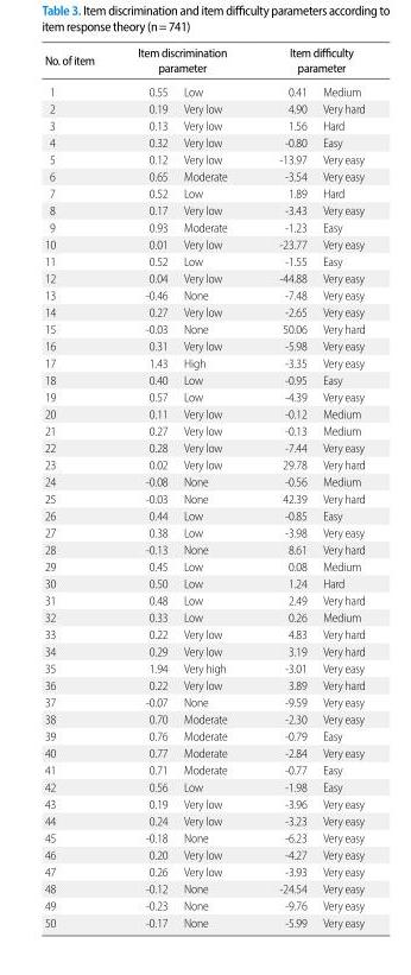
<table><thead><tr><td rowspan="2">No. of item 1</td><td colspan="2">Item discrimination parameter</td><td colspan="2">Item difficulty parameter</td></tr><tr><td>0.55</td><td>Low</td><td>0.41</td><td>Medium</td></tr></thead><tbody><tr><td>2</td><td>0.19</td><td>Very low</td><td>4.90</td><td>Very hard</td></tr><tr><td>3</td><td>0.13</td><td>Very low</td><td>1.56</td><td>Hard</td></tr><tr><td>4</td><td>0.32</td><td>Very low</td><td>-0.80</td><td>Easy</td></tr><tr><td>5</td><td>0.12</td><td>Very low</td><td>-13.97</td><td>Very easy</td></tr><tr><td>6</td><td>0.65</td><td>Moderate</td><td>-3.54</td><td>Very easy</td></tr><tr><td>7</td><td>0.52</td><td>Low</td><td>1.89</td><td>Hard</td></tr><tr><td>8</td><td>0.17</td><td>Very low</td><td>-3.43</td><td>Very easy</td></tr><tr><td>9</td><td>0.93</td><td>Moderate</td><td>-1.23</td><td>Easy</td></tr><tr><td>10</td><td>0.01</td><td>Very low</td><td>-23.77</td><td>Very easy</td></tr><tr><td>11</td><td>0.52</td><td>Low</td><td>-1.55</td><td>Easy</td></tr><tr><td>12</td><td>0.04</td><td>Very low</td><td>-44.88</td><td>Very easy</td></tr><tr><td>13</td><td>-0.46</td><td>None</td><td>-7.48</td><td>Very easy</td></tr><tr><td>14</td><td>0.27</td><td>Very low</td><td>-2.65</td><td>Very easy</td></tr><tr><td>15</td><td>-0.03</td><td>None</td><td>50.06</td><td>Very hard</td></tr><tr><td>16</td><td>0.31</td><td>Very low</td><td>-5.98</td><td>Very easy</td></tr><tr><td>17</td><td>1.43</td><td>High</td><td>-3.35</td><td>Very easy</td></tr><tr><td>18</td><td>0.40</td><td>Low</td><td>-0.95</td><td>Easy</td></tr><tr><td>19</td><td>0.57</td><td>Low</td><td>-4.39</td><td>Very easy</td></tr><tr><td>20</td><td>0.11</td><td>Very low</td><td>-0.12</td><td>Medium</td></tr><tr><td>21</td><td>0.27</td><td>Very low</td><td>-0.13</td><td>Medium</td></tr><tr><td>22</td><td>0.28</td><td>Very low</td><td>-7.44</td><td>Very easy</td></tr><tr><td>23</td><td>0.02</td><td>Very low</td><td>29.78</td><td>Very hard</td></tr><tr><td>24</td><td>-0.08</td><td>None</td><td>-0.56</td><td>Medium</td></tr><tr><td>25</td><td>-0.03</td><td>None</td><td>42.39</td><td>Very hard</td></tr><tr><td>26</td><td>0.44</td><td>Low</td><td>-0.85</td><td>Easy</td></tr><tr><td>27</td><td>0.38</td><td>Low</td><td>-3.98</td><td>Very easy</td></tr><tr><td>28</td><td>-0.13</td><td>None</td><td>8.61</td><td>Very hard</td></tr><tr><td>29</td><td>0.45</td><td>Low</td><td>0.08</td><td>Medium</td></tr><tr><td>30</td><td>0.50</td><td>Low</td><td>1.24</td><td>Hard</td></tr><tr><td>31</td><td>0.48</td><td>Low</td><td>2.49</td><td>Very hard</td></tr><tr><td>32</td><td>0.33</td><td>Low</td><td>0.26</td><td>Medium</td></tr><tr><td>33</td><td>0.22</td><td>Very low</td><td>4.83</td><td>Very hard</td></tr><tr><td>34</td><td>0.29</td><td>Very low</td><td>3.19</td><td>Very hard</td></tr><tr><td>35</td><td>1.94</td><td>Very high</td><td>-3.01</td><td>Very easy</td></tr><tr><td>36</td><td>0.22</td><td>Very low</td><td>3.89</td><td>Very hard</td></tr><tr><td>37</td><td>-0.07</td><td>None</td><td>-9.59</td><td>Very easy</td></tr><tr><td>38</td><td>0.70</td><td>Moderate</td><td>-2.30</td><td>Very easy</td></tr><tr><td>39</td><td>0.76</td><td>Moderate</td><td>-0.79</td><td>Easy</td></tr><tr><td>40</td><td>0.77</td><td>Moderate</td><td>-2.84</td><td>Very easy</td></tr><tr><td>41</td><td>0.71</td><td>Moderate</td><td>-0.77</td><td>Easy</td></tr><tr><td>42</td><td>0.56</td><td>Low</td><td>-1.98</td><td>Easy</td></tr><tr><td>43</td><td>0.19</td><td>Very low</td><td>-3.96</td><td>Very easy</td></tr><tr><td>44</td><td>0.24</td><td>Very low</td><td>-3.23</td><td>Very easy</td></tr><tr><td>45</td><td>-0.18</td><td>None</td><td>-6.23</td><td>Very easy</td></tr><tr><td>46</td><td>0.20</td><td>Very low</td><td>-4.27</td><td>Very easy</td></tr><tr><td>47</td><td>0.26</td><td>Very low</td><td>-3.93</td><td>Very easy</td></tr><tr><td>48</td><td>-0.12</td><td>None</td><td>-24.54</td><td>Very easy</td></tr><tr><td>49</td><td>-0.23</td><td>None</td><td>-9.76</td><td>Very easy</td></tr><tr><td>50</td><td>-0.17</td><td>None</td><td>-5.99</td><td>Very easy</td></tr></tbody></table>